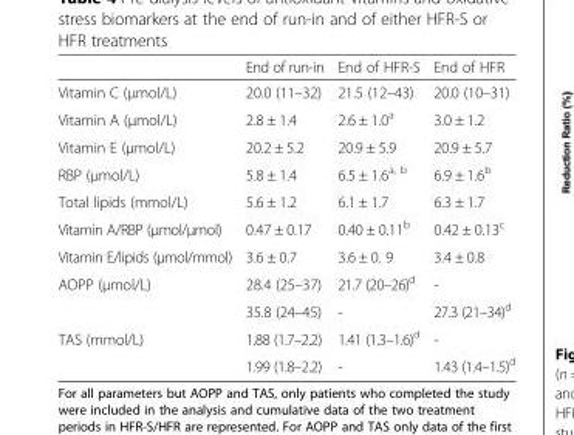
<table><thead><tr><td></td><td>End of run-in</td><td>End of HFR-S</td><td>End of HFR</td></tr></thead><tbody><tr><td>Vitamin C (μmol/L)</td><td>20.0 (11–32)</td><td>21.5 (12–43)</td><td>20.0 (10–31)</td></tr><tr><td>Vitamin A (μmol/L)</td><td>2.8 ± 1.4</td><td>2.6 ± 1.0<sup>a</sup></td><td>3.0 ± 1.2</td></tr><tr><td>Vitamin E (μmol/L)</td><td>20.2 ± 5.2</td><td>20.9 ± 5.9</td><td>20.9 ± 5.7</td></tr><tr><td>RBP (μmol/L)</td><td>5.8 ± 1.4</td><td>6.5 ± 1.6<sup>a, b</sup></td><td>6.9 ± 1.6<sup>b</sup></td></tr><tr><td>Total lipids (mmol/L)</td><td>5.6 ± 1.2</td><td>6.1 ± 1.7</td><td>6.3 ± 1.7</td></tr><tr><td>Vitamin A/RBP (μmol/μmol)</td><td>0.47 ± 0.17</td><td>0.40 ± 0.11<sup>b</sup></td><td>0.42 ± 0.13<sup>c</sup></td></tr><tr><td>Vitamin E/lipids (μmol/mmol)</td><td>3.6 ± 0.7</td><td>3.6 ± 0. 9</td><td>3.4 ± 0.8</td></tr><tr><td rowspan="2">AOPP (μmol/L)</td><td>28.4 (25–37)</td><td>21.7 (20–26)<sup>d</sup></td><td>-</td></tr><tr><td>35.8 (24–45)</td><td>-</td><td>27.3 (21–34)<sup>d</sup></td></tr><tr><td rowspan="2">TAS (mmol/L)</td><td>1.88 (1.7–2.2)</td><td>1.41 (1.3–1.6)<sup>d</sup></td><td>-</td></tr><tr><td>1.99 (1.8–2.2)</td><td>-</td><td>1.43 (1.4–1.5)<sup>d</sup></td></tr></tbody></table>